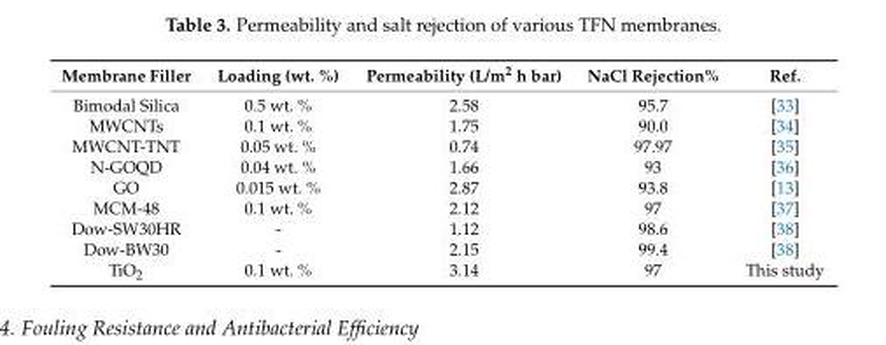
<table><thead><tr><td>Membrane Filler</td><td>Loading (wt. %)</td><td>Permeability (L/m<sup>2</sup> h bar)</td><td>NaCl Rejection%</td><td>Ref.</td></tr></thead><tbody><tr><td>Bimodal Silica</td><td>0.5 wt. %</td><td>2.58</td><td>95.7</td><td>[33]</td></tr><tr><td>MWCNTs</td><td>0.1 wt. %</td><td>1.75</td><td>90.0</td><td>[34]</td></tr><tr><td>MWCNT-TNT</td><td>0.05 wt. %</td><td>0.74</td><td>97.97</td><td>[35]</td></tr><tr><td>N-GOQD</td><td>0.04 wt. %</td><td>1.66</td><td>93</td><td>[36]</td></tr><tr><td>GO</td><td>0.015 wt. %</td><td>2.87</td><td>93.8</td><td>[13]</td></tr><tr><td>MCM-48</td><td>0.1 wt. %</td><td>2.12</td><td>97</td><td>[37]</td></tr><tr><td>Dow-SW30HR</td><td>-</td><td>1.12</td><td>98.6</td><td>[38]</td></tr><tr><td>Dow-BW30</td><td>-</td><td>2.15</td><td>99.4</td><td>[38]</td></tr><tr><td>TiO<sub>2</sub></td><td>0.1 wt. %</td><td>3.14</td><td>97</td><td>This study</td></tr></tbody></table>